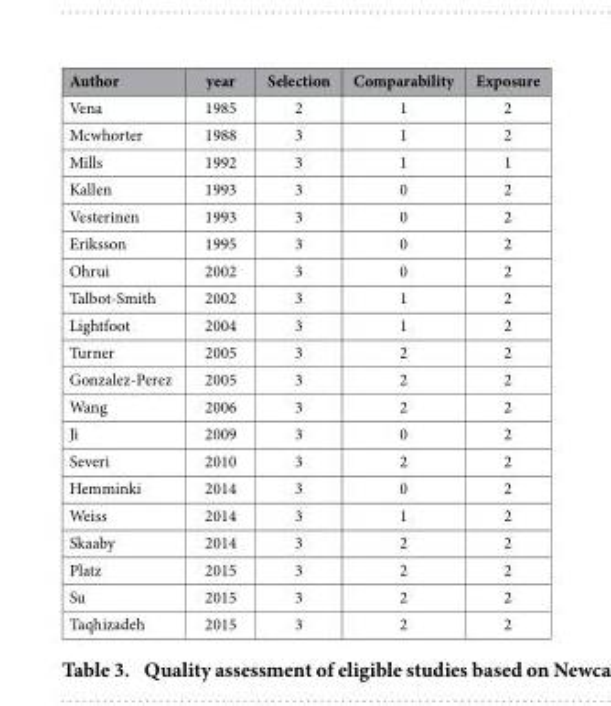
<table><thead><tr><td>Author</td><td>year</td><td>Selection</td><td>Comparability</td><td>Exposure</td></tr></thead><tbody><tr><td>Vena</td><td>1985</td><td>2</td><td>1</td><td>2</td></tr><tr><td>Mcwhorter</td><td>1988</td><td>3</td><td>1</td><td>2</td></tr><tr><td>Mills</td><td>1992</td><td>3</td><td>1</td><td>1</td></tr><tr><td>Kallen</td><td>1993</td><td>3</td><td>0</td><td>2</td></tr><tr><td>Vesterinen</td><td>1993</td><td>3</td><td>0</td><td>2</td></tr><tr><td>Eriksson</td><td>1995</td><td>3</td><td>0</td><td>2</td></tr><tr><td>Ohrui</td><td>2002</td><td>3</td><td>0</td><td>2</td></tr><tr><td>Talbot-Smith</td><td>2002</td><td>3</td><td>1</td><td>2</td></tr><tr><td>Lightfoot</td><td>2004</td><td>3</td><td>1</td><td>2</td></tr><tr><td>Turner</td><td>2005</td><td>3</td><td>2</td><td>2</td></tr><tr><td>Gonzalez-Perez</td><td>2005</td><td>3</td><td>2</td><td>2</td></tr><tr><td>Wang</td><td>2006</td><td>3</td><td>2</td><td>2</td></tr><tr><td>Ji</td><td>2009</td><td>3</td><td>0</td><td>2</td></tr><tr><td>Severi</td><td>2010</td><td>3</td><td>2</td><td>2</td></tr><tr><td>Hemminki</td><td>2014</td><td>3</td><td>0</td><td>2</td></tr><tr><td>Weiss</td><td>2014</td><td>3</td><td>1</td><td>2</td></tr><tr><td>Skaaby</td><td>2014</td><td>3</td><td>2</td><td>2</td></tr><tr><td>Platz</td><td>2015</td><td>3</td><td>2</td><td>2</td></tr><tr><td>Su</td><td>2015</td><td>3</td><td>2</td><td>2</td></tr><tr><td>Taqhizadeh</td><td>2015</td><td>3</td><td>2</td><td>2</td></tr></tbody></table>